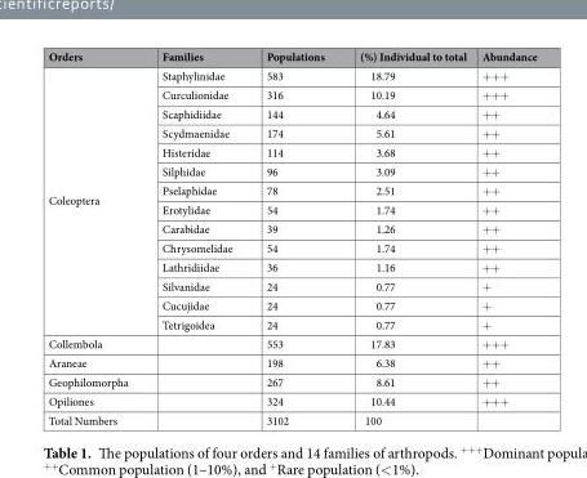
<table><thead><tr><td>Orders</td><td>Families</td><td>Populations</td><td>(%) Individual to total</td><td>Abundance</td></tr></thead><tbody><tr><td rowspan="14">Coleoptera</td><td>Staphylinidae</td><td>583</td><td>18.79</td><td>+++</td></tr><tr><td>Curculionidae</td><td>316</td><td>10.19</td><td>+++</td></tr><tr><td>Scaphidiidae</td><td>144</td><td>4.64</td><td>++</td></tr><tr><td>Scydmaenidae</td><td>174</td><td>5.61</td><td>++</td></tr><tr><td>Histeridae</td><td>114</td><td>3.68</td><td>++</td></tr><tr><td>Silphidae</td><td>96</td><td>3.09</td><td>++</td></tr><tr><td>Pselaphidae</td><td>78</td><td>2.51</td><td>++</td></tr><tr><td>Erotylidae</td><td>54</td><td>1.74</td><td>++</td></tr><tr><td>Carabidae</td><td>39</td><td>1.26</td><td>++</td></tr><tr><td>Chrysomelidae</td><td>54</td><td>1.74</td><td>++</td></tr><tr><td>Lathridiidae</td><td>36</td><td>1.16</td><td>++</td></tr><tr><td>Silvanidae</td><td>24</td><td>0.77</td><td>+</td></tr><tr><td>Cucujidae</td><td>24</td><td>0.77</td><td>+</td></tr><tr><td>Tetrigoidea</td><td>24</td><td>0.77</td><td>+</td></tr><tr><td>Collembola</td><td></td><td>553</td><td>17.83</td><td>+++</td></tr><tr><td>Araneae</td><td></td><td>198</td><td>6.38</td><td>++</td></tr><tr><td>Geophilomorpha</td><td></td><td>267</td><td>8.61</td><td>++</td></tr><tr><td>Opiliones</td><td></td><td>324</td><td>10.44</td><td>+++</td></tr><tr><td>Total Numbers</td><td></td><td>3102</td><td>100</td><td></td></tr></tbody></table>